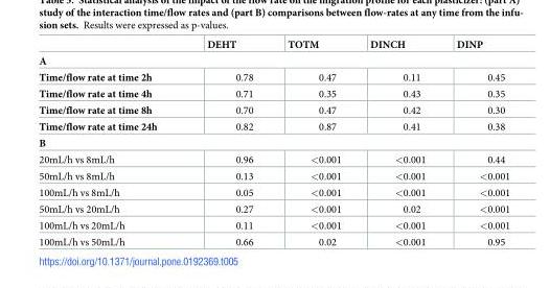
<table><thead><tr><td></td><td>DEHT</td><td>TOTM</td><td>DINCH</td><td>DINP</td></tr></thead><tbody><tr><td colspan="5">A</td></tr><tr><td>Time/flow rate at time 2h</td><td>0.78</td><td>0.47</td><td>0.11</td><td>0.45</td></tr><tr><td>Time/flow rate at time 4h</td><td>0.71</td><td>0.35</td><td>0.43</td><td>0.35</td></tr><tr><td>Time/flow rate at time 8h</td><td>0.70</td><td>0.47</td><td>0.42</td><td>0.30</td></tr><tr><td>Time/flow rate at time 24h</td><td>0.82</td><td>0.87</td><td>0.41</td><td>0.38</td></tr><tr><td colspan="5">B</td></tr><tr><td>20mL/h vs 8mL/h</td><td>0.96</td><td>&lt;0.001</td><td>&lt;0.001</td><td>0.44</td></tr><tr><td>50mL/h vs 8mL/h</td><td>0.13</td><td>&lt;0.001</td><td>&lt;0.001</td><td>&lt;0.001</td></tr><tr><td>100mL/h vs 8mL/h</td><td>0.05</td><td>&lt;0.001</td><td>&lt;0.001</td><td>&lt;0.001</td></tr><tr><td>50mL/h vs 20mL/h</td><td>0.27</td><td>&lt;0.001</td><td>0.02</td><td>&lt;0.001</td></tr><tr><td>100mL/h vs 20mL/h</td><td>0.11</td><td>&lt;0.001</td><td>&lt;0.001</td><td>&lt;0.001</td></tr><tr><td>100mL/h vs 50mL/h</td><td>0.66</td><td>0.02</td><td>&lt;0.001</td><td>0.95</td></tr></tbody></table>